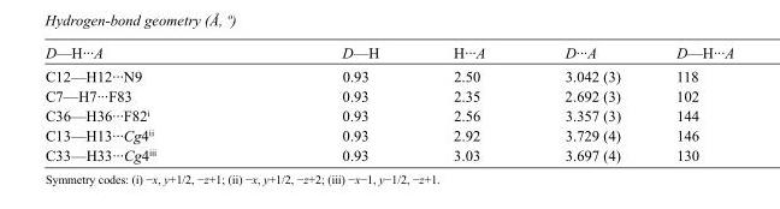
<table><tbody><tr><td>D—H···A</td><td>D—H</td><td>H···A</td><td>D···A</td><td>D—H···A</td></tr><tr><td>C12—H12···N9</td><td>0.93</td><td>2.50</td><td>3.042 (3)</td><td>118</td></tr><tr><td>C7—H7···F83</td><td>0.93</td><td>2.35</td><td>2.692 (3)</td><td>102</td></tr><tr><td>C36—H36···F82<sup>i</sup></td><td>0.93</td><td>2.56</td><td>3.357 (3)</td><td>144</td></tr><tr><td>C13—H13···Cg4<sup>ii</sup></td><td>0.93</td><td>2.92</td><td>3.729 (4)</td><td>146</td></tr><tr><td>C33—H33···Cg4<sup>iii</sup></td><td>0.93</td><td>3.03</td><td>3.697 (4)</td><td>130</td></tr></tbody></table>